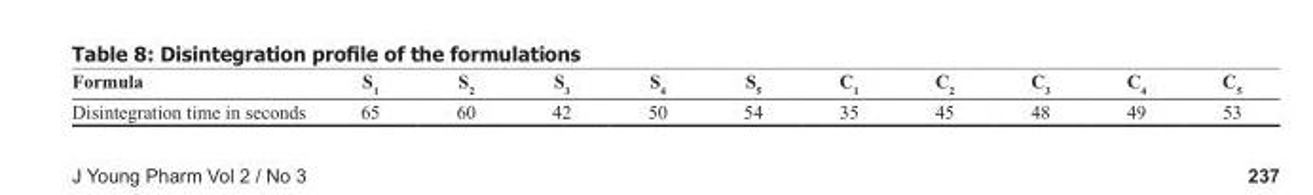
<table><thead><tr><td>Formula</td><td>S<sub>1</sub></td><td>S<sub>2</sub></td><td>S<sub>3</sub></td><td>S<sub>4</sub></td><td>S<sub>5</sub></td><td>C<sub>1</sub></td><td>C<sub>2</sub></td><td>C<sub>3</sub></td><td>C<sub>4</sub></td><td>C<sub>5</sub></td></tr></thead><tbody><tr><td>Disintegration time in seconds</td><td>65</td><td>60</td><td>42</td><td>50</td><td>54</td><td>35</td><td>45</td><td>48</td><td>49</td><td>53</td></tr></tbody></table>